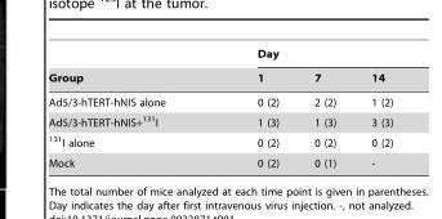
<table><thead><tr><td rowspan="2">Group</td><td colspan="3">Day</td></tr><tr><td>1</td><td>7</td><td>14</td></tr></thead><tbody><tr><td>Ad5/3-hTERT-hNIS alone</td><td>0 (2)</td><td>2 (2)</td><td>1 (2)</td></tr><tr><td>Ad5/3-hTERT-hNIS+<sup>131</sup>I</td><td>1 (3)</td><td>1 (3)</td><td>3 (3)</td></tr><tr><td><sup>131</sup>I alone</td><td>0 (2)</td><td>0 (2)</td><td>0 (2)</td></tr><tr><td>Mock</td><td>0 (2)</td><td>0 (1)</td><td>-</td></tr></tbody></table>